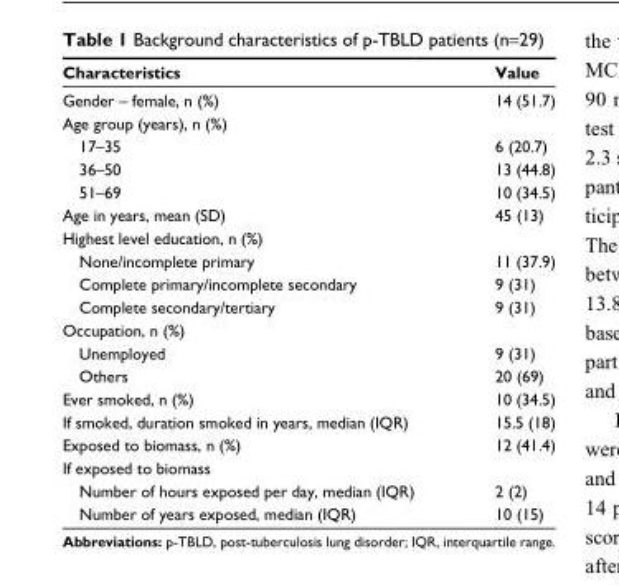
<table><thead><tr><td>Characteristics</td><td>Value</td></tr></thead><tbody><tr><td>gender – female, n (%)</td><td>14 (51.7)</td></tr><tr><td colspan="2">age group (years), n (%)</td></tr><tr><td>17–35</td><td>6 (20.7)</td></tr><tr><td>36–50</td><td>13 (44.8)</td></tr><tr><td>51–69</td><td>10 (34.5)</td></tr><tr><td>age in years, mean (sD)</td><td>45 (13)</td></tr><tr><td colspan="2">highest level education, n (%)</td></tr><tr><td>none/incomplete primary</td><td>11 (37.9)</td></tr><tr><td>Complete primary/incomplete secondary</td><td>9 (31)</td></tr><tr><td>Complete secondary/tertiary</td><td>9 (31)</td></tr><tr><td colspan="2">Occupation, n (%)</td></tr><tr><td>Unemployed</td><td>9 (31)</td></tr><tr><td>Others</td><td>20 (69)</td></tr><tr><td>ever smoked, n (%)</td><td>10 (34.5)</td></tr><tr><td>If smoked, duration smoked in years, median (IQr)</td><td>15.5 (18)</td></tr><tr><td>exposed to biomass, n (%)</td><td>12 (41.4)</td></tr><tr><td colspan="2">If exposed to biomass</td></tr><tr><td>number of hours exposed per day, median (IQr)</td><td>2 (2)</td></tr><tr><td>number of years exposed, median (IQr)</td><td>10 (15)</td></tr></tbody></table>